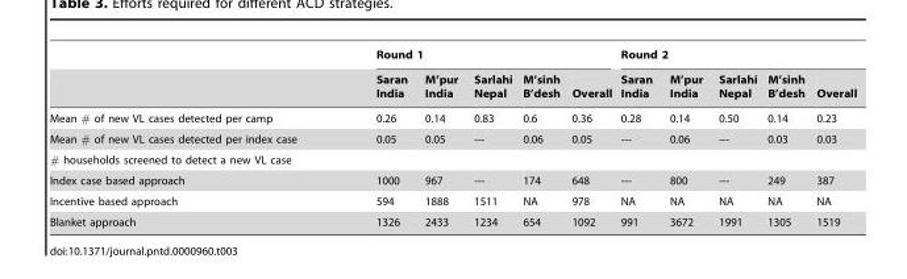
<table><thead><tr><td rowspan="2"></td><td colspan="5">Round 1</td><td colspan="5">Round 2</td></tr><tr><td>Saran India</td><td>M’pur India</td><td>Sarlahi Nepal</td><td>M’sinh B’desh</td><td>Overall</td><td>Saran India</td><td>M’pur India</td><td>Sarlahi Nepal</td><td>M’sinh B’desh</td><td>Overall</td></tr></thead><tbody><tr><td>Mean # of new VL cases detected per camp</td><td>0.26</td><td>0.14</td><td>0.83</td><td>0.6</td><td>0.36</td><td>0.28</td><td>0.14</td><td>0.50</td><td>0.14</td><td>0.23</td></tr><tr><td>Mean # of new VL cases detected per index case</td><td>0.05</td><td>0.05</td><td>---</td><td>0.06</td><td>0.05</td><td>---</td><td>0.06</td><td>---</td><td>0.03</td><td>0.03</td></tr><tr><td colspan="11"># households screened to detect a new VL case</td></tr><tr><td>Index case based approach</td><td>1000</td><td>967</td><td>---</td><td>174</td><td>648</td><td>---</td><td>800</td><td>---</td><td>249</td><td>387</td></tr><tr><td>Incentive based approach</td><td>594</td><td>1888</td><td>1511</td><td>NA</td><td>978</td><td>NA</td><td>NA</td><td>NA</td><td>NA</td><td>NA</td></tr><tr><td>Blanket approach</td><td>1326</td><td>2433</td><td>1234</td><td>654</td><td>1092</td><td>991</td><td>3672</td><td>1991</td><td>1305</td><td>1519</td></tr></tbody></table>